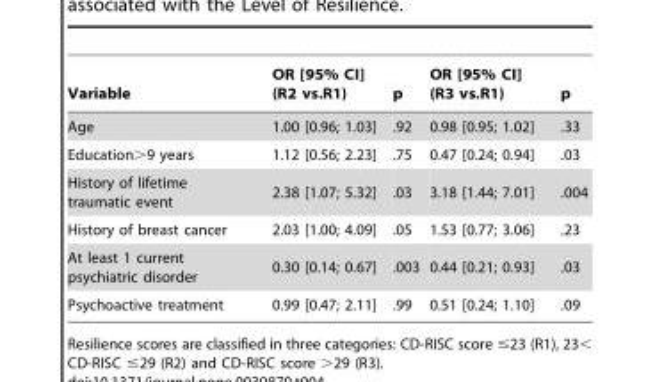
<table><thead><tr><td>Variable</td><td>OR [95% CI] (R2 vs.R1)</td><td>p</td><td>OR [95% CI] (R3 vs.R1)</td><td>p</td></tr></thead><tbody><tr><td>Age</td><td>1.00 [0.96; 1.03]</td><td>.92</td><td>0.98 [0.95; 1.02]</td><td>.33</td></tr><tr><td>Education&gt;9 years</td><td>1.12 [0.56; 2.23]</td><td>.75</td><td>0.47 [0.24; 0.94]</td><td>.03</td></tr><tr><td>History of lifetime traumatic event</td><td>2.38 [1.07; 5.32]</td><td>.03</td><td>3.18 [1.44; 7.01]</td><td>.004</td></tr><tr><td>History of breast cancer</td><td>2.03 [1.00; 4.09]</td><td>.05</td><td>1.53 [0.77; 3.06]</td><td>.23</td></tr><tr><td>At least 1 current psychiatric disorder</td><td>0.30 [0.14; 0.67]</td><td>.003</td><td>0.44 [0.21; 0.93]</td><td>.03</td></tr><tr><td>Psychoactive treatment</td><td>0.99 [0.47; 2.11]</td><td>.99</td><td>0.51 [0.24; 1.10]</td><td>.09</td></tr></tbody></table>